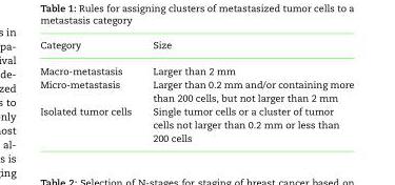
<table><thead><tr><td>Category</td><td>Size</td></tr></thead><tbody><tr><td>Macro-metastasis</td><td>Larger than 2 mm</td></tr><tr><td>Micro-metastasis</td><td>Larger than 0.2 mm and/or containing more than 200 cells, but not larger than 2 mm</td></tr><tr><td>Isolated tumor cells</td><td>Single tumor cells or a cluster of tumor cells not larger than 0.2 mm or less than 200 cells</td></tr></tbody></table>